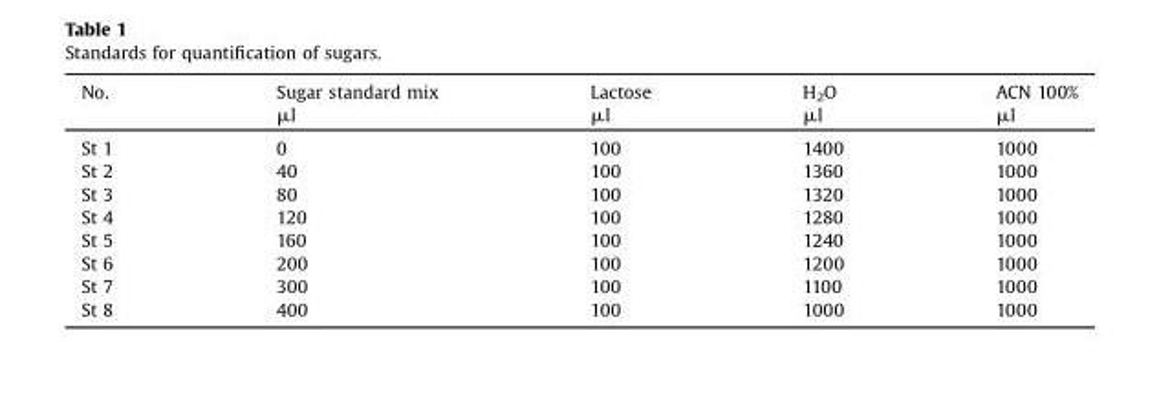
<table><thead><tr><td>No.</td><td>Sugar standard mix μl</td><td>Lactose μl</td><td>H<sub>2</sub>O μl</td><td>ACN 100% μl</td></tr></thead><tbody><tr><td>St 1</td><td>0</td><td>100</td><td>1400</td><td>1000</td></tr><tr><td>St 2</td><td>40</td><td>100</td><td>1360</td><td>1000</td></tr><tr><td>St 3</td><td>80</td><td>100</td><td>1320</td><td>1000</td></tr><tr><td>St 4</td><td>120</td><td>100</td><td>1280</td><td>1000</td></tr><tr><td>St 5</td><td>160</td><td>100</td><td>1240</td><td>1000</td></tr><tr><td>St 6</td><td>200</td><td>100</td><td>1200</td><td>1000</td></tr><tr><td>St 7</td><td>300</td><td>100</td><td>1100</td><td>1000</td></tr><tr><td>St 8</td><td>400</td><td>100</td><td>1000</td><td>1000</td></tr></tbody></table>